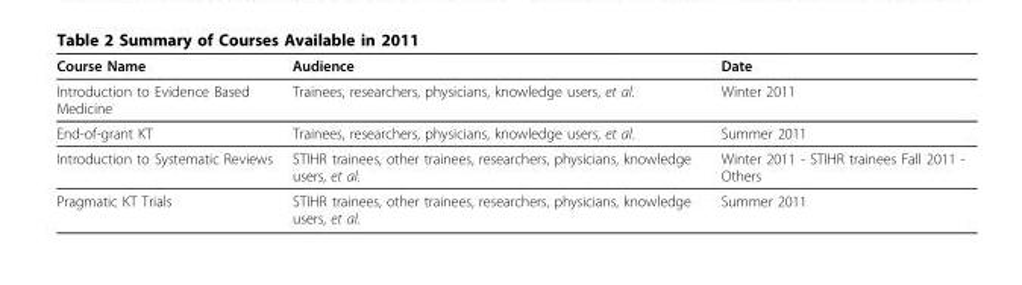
<table><thead><tr><td>Course Name</td><td>Audience</td><td>Date</td></tr></thead><tbody><tr><td>Introduction to Evidence Based Medicine</td><td>Trainees, researchers, physicians, knowledge users, et al.</td><td>Winter 2011</td></tr><tr><td>End-of-grant KT</td><td>Trainees, researchers, physicians, knowledge users, et al.</td><td>Summer 2011</td></tr><tr><td>Introduction to Systematic Reviews</td><td>STIHR trainees, other trainees, researchers, physicians, knowledge users, et al.</td><td>Winter 2011 - STIHR trainees Fall 2011 - Others</td></tr><tr><td>Pragmatic KT Trials</td><td>STIHR trainees, other trainees, researchers, physicians, knowledge users, et al.</td><td>Summer 2011</td></tr></tbody></table>